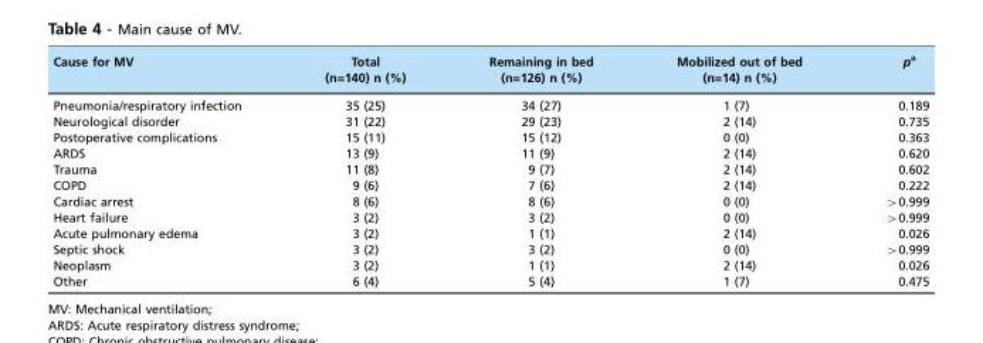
<table><thead><tr><td>Cause for MV</td><td>Total (n=140) n (%)</td><td>Remaining in bed (n=126) n (%)</td><td>Mobilized out of bed (n=14) n (%)</td><td>p<sup>a</sup></td></tr></thead><tbody><tr><td>Pneumonia/respiratory infection</td><td>35 (25)</td><td>34 (27)</td><td>1 (7)</td><td>0.189</td></tr><tr><td>Neurological disorder</td><td>31 (22)</td><td>29 (23)</td><td>2 (14)</td><td>0.735</td></tr><tr><td>Postoperative complications</td><td>15 (11)</td><td>15 (12)</td><td>0 (0)</td><td>0.363</td></tr><tr><td>ARDS</td><td>13 (9)</td><td>11 (9)</td><td>2 (14)</td><td>0.620</td></tr><tr><td>Trauma</td><td>11 (8)</td><td>9 (7)</td><td>2 (14)</td><td>0.602</td></tr><tr><td>COPD</td><td>9 (6)</td><td>7 (6)</td><td>2 (14)</td><td>0.222</td></tr><tr><td>Cardiac arrest</td><td>8 (6)</td><td>8 (6)</td><td>0 (0)</td><td>&gt;0.999</td></tr><tr><td>Heart failure</td><td>3 (2)</td><td>3 (2)</td><td>0 (0)</td><td>&gt;0.999</td></tr><tr><td>Acute pulmonary edema</td><td>3 (2)</td><td>1 (1)</td><td>2 (14)</td><td>0.026</td></tr><tr><td>Septic shock</td><td>3 (2)</td><td>3 (2)</td><td>0 (0)</td><td>&gt;0.999</td></tr><tr><td>Neoplasm</td><td>3 (2)</td><td>1 (1)</td><td>2 (14)</td><td>0.026</td></tr><tr><td>Other</td><td>6 (4)</td><td>5 (4)</td><td>1 (7)</td><td>0.475</td></tr></tbody></table>